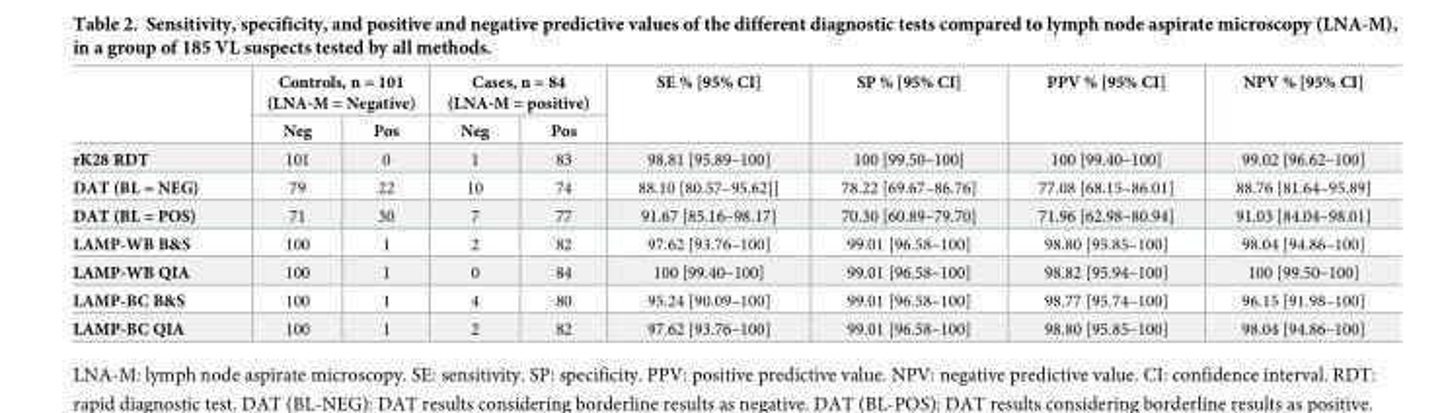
<table><thead><tr><td rowspan="2"></td><td colspan="2">Controls, n = 101 (LNA-M = Negative)</td><td colspan="2">Cases, n = 84 (LNA-M = positive)</td><td rowspan="2">SE % [95% CI]</td><td rowspan="2">SP % [95% CI]</td><td rowspan="2">PPV % [95% CI]</td><td rowspan="2">NPV % [95% CI]</td></tr><tr><td>Neg</td><td>Pos</td><td>Neg</td><td>Pos</td></tr></thead><tbody><tr><td>rK28 RDT</td><td>101</td><td>0</td><td>1</td><td>83</td><td>98.81 [95.89–100]</td><td>100 [99.50–100]</td><td>100 [99.40–100]</td><td>99.02 [96.62–100]</td></tr><tr><td>DAT (BL = NEG)</td><td>79</td><td>22</td><td>10</td><td>74</td><td>88.10 [80.57–95.62]]</td><td>78.22 [69.67–86.76]</td><td>77.08 [68.15–86.01]</td><td>88.76 [81.64–95.89]</td></tr><tr><td>DAT (BL = POS)</td><td>71</td><td>30</td><td>7</td><td>77</td><td>91.67 [85.16–98.17]</td><td>70.30 [60.89–79.70]</td><td>71.96 [62.98–80.94]</td><td>91.03 [84.04–98.01]</td></tr><tr><td>LAMP-WB B&amp;S</td><td>100</td><td>1</td><td>2</td><td>82</td><td>97.62 [93.76–100]</td><td>99.01 [96.58–100]</td><td>98.80 [95.85–100]</td><td>98.04 [94.86–100]</td></tr><tr><td>LAMP-WB QIA</td><td>100</td><td>1</td><td>0</td><td>84</td><td>100 [99.40–100]</td><td>99.01 [96.58–100]</td><td>98.82 [95.94–100]</td><td>100 [99.50–100]</td></tr><tr><td>LAMP-BC B&amp;S</td><td>100</td><td>1</td><td>4</td><td>80</td><td>95.24 [90.09–100]</td><td>99.01 [96.58–100]</td><td>98.77 [95.74–100]</td><td>96.15 [91.98–100]</td></tr><tr><td>LAMP-BC QIA</td><td>100</td><td>1</td><td>2</td><td>82</td><td>97.62 [93.76–100]</td><td>99.01 [96.58–100]</td><td>98.80 [95.85–100]</td><td>98.04 [94.86–100]</td></tr></tbody></table>